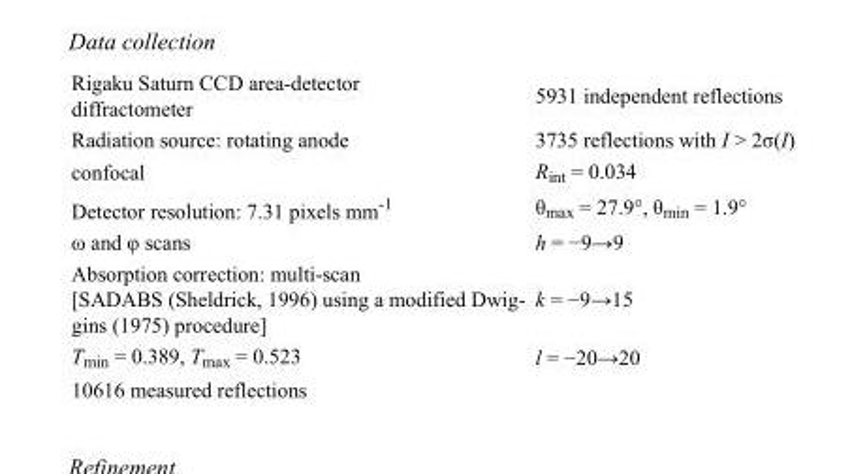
<table><tbody><tr><td>Rigaku Saturn CCD area-detector diffractometer</td><td>5931 independent reflections</td></tr><tr><td>Radiation source: rotating anode</td><td>3735 reflections with I &gt; 2σ(I)</td></tr><tr><td>confocal</td><td>R<sub>int</sub> = 0.034</td></tr><tr><td>Detector resolution: 7.31 pixels mm<sup>-1</sup></td><td>θ<sub>max</sub> = 27.9°, θ<sub>min</sub> = 1.9°</td></tr><tr><td>ω and φ scans</td><td>h = −9→9</td></tr><tr><td>Absorption correction: multi-scan [SADABS (Sheldrick, 1996) using a modified Dwig- gins (1975) procedure]</td><td>k = −9→15</td></tr><tr><td>T<sub>min</sub> = 0.389, T<sub>max</sub> = 0.523</td><td>l = −20→20</td></tr><tr><td>10616 measured reflections</td><td></td></tr></tbody></table>